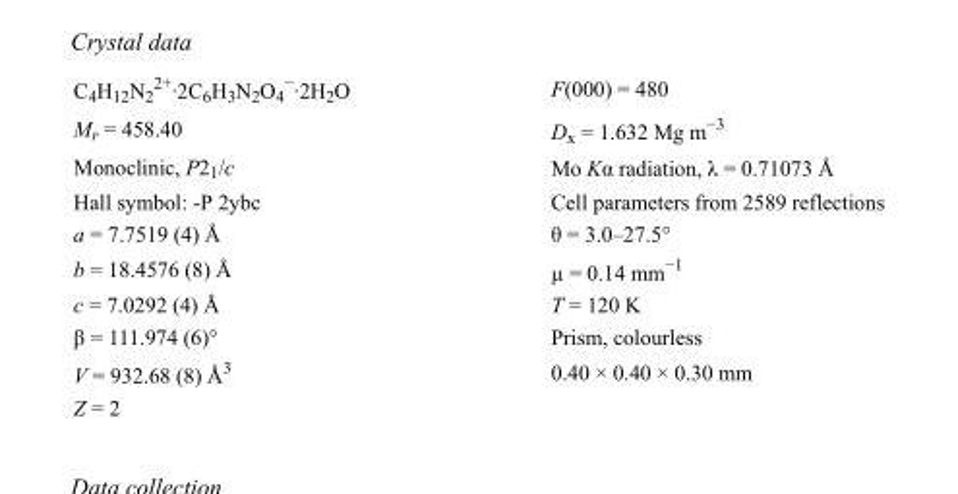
<table><tbody><tr><td>C<sub>4</sub>H<sub>12</sub>N<sub>2</sub> <sup>2+</sup>·2C<sub>6</sub>H<sub>3</sub>N<sub>2</sub>O<sub>4</sub> <sup>−</sup>·2H<sub>2</sub>O</td><td>F(000) = 480</td></tr><tr><td>M<sub>r</sub> = 458.40</td><td>D<sub>x</sub> = 1.632 Mg m<sup>−3</sup></td></tr><tr><td>Monoclinic, P2<sub>1</sub>/c</td><td>Mo Kα radiation, λ = 0.71073 Å</td></tr><tr><td>Hall symbol: -P 2ybc</td><td>Cell parameters from 2589 reflections</td></tr><tr><td>a = 7.7519 (4) Å</td><td>θ = 3.0–27.5°</td></tr><tr><td>b = 18.4576 (8) Å</td><td>µ = 0.14 mm<sup>−1</sup></td></tr><tr><td>c = 7.0292 (4) Å</td><td>T = 120 K</td></tr><tr><td>β = 111.974 (6)°</td><td>Prism, colourless</td></tr><tr><td>V = 932.68 (8) Å<sup>3</sup></td><td>0.40 × 0.40 × 0.30 mm</td></tr><tr><td>Z = 2</td><td></td></tr></tbody></table>